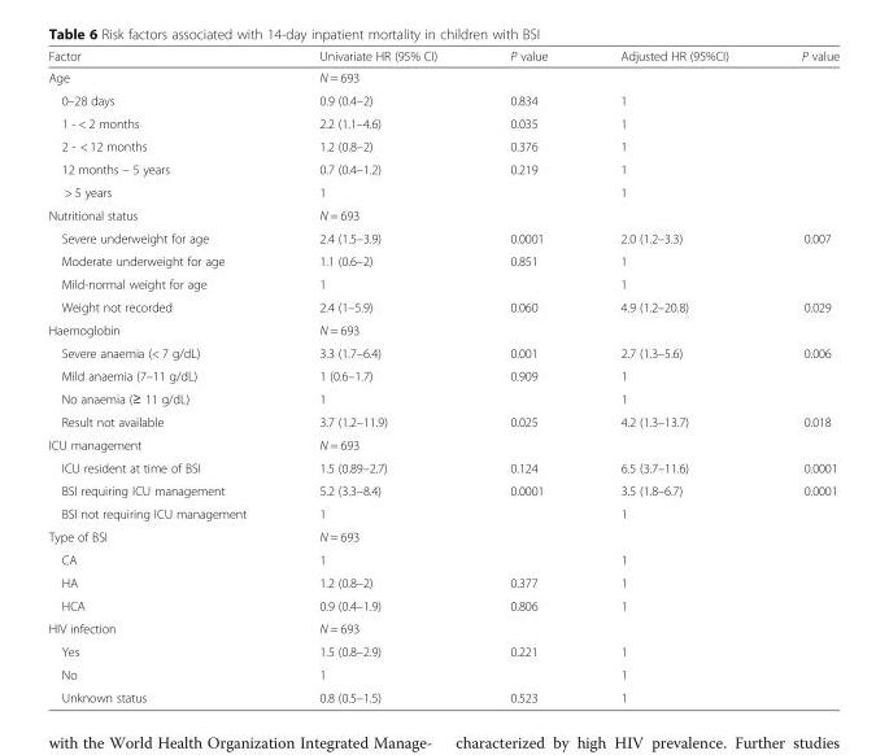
<table><thead><tr><td>Factor</td><td>Univariate HR (95% CI)</td><td>P value</td><td>Adjusted HR (95%CI)</td><td>P value</td></tr></thead><tbody><tr><td>Age</td><td>N = 693</td><td></td><td></td><td></td></tr><tr><td>0–28 days</td><td>0.9 (0.4–2)</td><td>0.834</td><td>1</td><td></td></tr><tr><td>1 - &lt; 2 months</td><td>2.2 (1.1–4.6)</td><td>0.035</td><td>1</td><td></td></tr><tr><td>2 - &lt; 12 months</td><td>1.2 (0.8–2)</td><td>0.376</td><td>1</td><td></td></tr><tr><td>12 months – 5 years</td><td>0.7 (0.4–1.2)</td><td>0.219</td><td>1</td><td></td></tr><tr><td>&gt; 5 years</td><td>1</td><td></td><td>1</td><td></td></tr><tr><td>Nutritional status</td><td>N = 693</td><td></td><td></td><td></td></tr><tr><td>Severe underweight for age</td><td>2.4 (1.5–3.9)</td><td>0.0001</td><td>2.0 (1.2–3.3)</td><td>0.007</td></tr><tr><td>Moderate underweight for age</td><td>1.1 (0.6–2)</td><td>0.851</td><td>1</td><td></td></tr><tr><td>Mild-normal weight for age</td><td>1</td><td></td><td>1</td><td></td></tr><tr><td>Weight not recorded</td><td>2.4 (1–5.9)</td><td>0.060</td><td>4.9 (1.2–20.8)</td><td>0.029</td></tr><tr><td>Haemoglobin</td><td>N = 693</td><td></td><td></td><td></td></tr><tr><td>Severe anaemia (&lt; 7 g/dL)</td><td>3.3 (1.7–6.4)</td><td>0.001</td><td>2.7 (1.3–5.6)</td><td>0.006</td></tr><tr><td>Mild anaemia (7–11 g/dL)</td><td>1 (0.6–1.7)</td><td>0.909</td><td>1</td><td></td></tr><tr><td>No anaemia (≥ 11 g/dL)</td><td>1</td><td></td><td>1</td><td></td></tr><tr><td>Result not available</td><td>3.7 (1.2–11.9)</td><td>0.025</td><td>4.2 (1.3–13.7)</td><td>0.018</td></tr><tr><td>ICU management</td><td>N = 693</td><td></td><td></td><td></td></tr><tr><td>ICU resident at time of BSI</td><td>1.5 (0.89–2.7)</td><td>0.124</td><td>6.5 (3.7–11.6)</td><td>0.0001</td></tr><tr><td>BSI requiring ICU management</td><td>5.2 (3.3–8.4)</td><td>0.0001</td><td>3.5 (1.8–6.7)</td><td>0.0001</td></tr><tr><td>BSI not requiring ICU management</td><td>1</td><td></td><td>1</td><td></td></tr><tr><td>Type of BSI</td><td>N = 693</td><td></td><td></td><td></td></tr><tr><td>CA</td><td>1</td><td></td><td>1</td><td></td></tr><tr><td>HA</td><td>1.2 (0.8–2)</td><td>0.377</td><td>1</td><td></td></tr><tr><td>HCA</td><td>0.9 (0.4–1.9)</td><td>0.806</td><td>1</td><td></td></tr><tr><td>HIV infection</td><td>N = 693</td><td></td><td></td><td></td></tr><tr><td>Yes</td><td>1.5 (0.8–2.9)</td><td>0.221</td><td>1</td><td></td></tr><tr><td>No</td><td>1</td><td></td><td>1</td><td></td></tr><tr><td>Unknown status</td><td>0.8 (0.5–1.5)</td><td>0.523</td><td>1</td><td></td></tr></tbody></table>